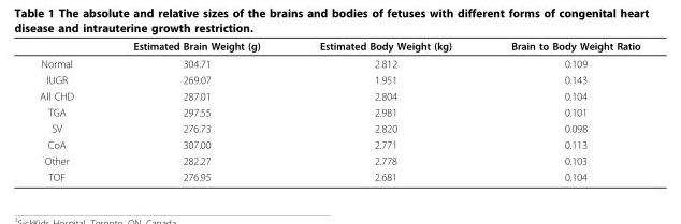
<table><thead><tr><td></td><td>Estimated Brain Weight (g)</td><td>Estimated Body Weight (kg)</td><td>Brain to Body Weight Ratio</td></tr></thead><tbody><tr><td>Normal</td><td>304.71</td><td>2.812</td><td>0.109</td></tr><tr><td>IUGR</td><td>269.07</td><td>1.951</td><td>0.143</td></tr><tr><td>All CHD</td><td>287.01</td><td>2.804</td><td>0.104</td></tr><tr><td>TGA</td><td>297.55</td><td>2.981</td><td>0.101</td></tr><tr><td>SV</td><td>276.73</td><td>2.820</td><td>0.098</td></tr><tr><td>CoA</td><td>307.00</td><td>2.771</td><td>0.113</td></tr><tr><td>Other</td><td>282.27</td><td>2.778</td><td>0.103</td></tr><tr><td>TOF</td><td>276.95</td><td>2.681</td><td>0.104</td></tr></tbody></table>